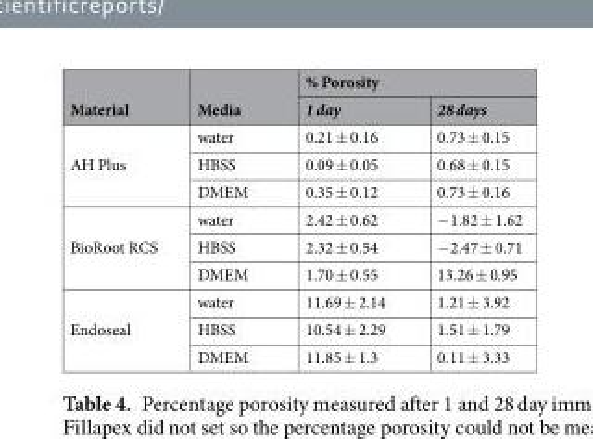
<table><thead><tr><td rowspan="2">Material</td><td rowspan="2">Media</td><td colspan="2">% Porosity</td></tr><tr><td>1 day</td><td>28 days</td></tr></thead><tbody><tr><td rowspan="3">AH Plus</td><td>water</td><td>0.21 ± 0.16</td><td>0.73 ± 0.15</td></tr><tr><td>HBSS</td><td>0.09 ± 0.05</td><td>0.68 ± 0.15</td></tr><tr><td>DMEM</td><td>0.35 ± 0.12</td><td>0.73 ± 0.16</td></tr><tr><td rowspan="3">BioRoot RCS</td><td>water</td><td>2.42 ± 0.62</td><td>−1.82 ± 1.62</td></tr><tr><td>HBSS</td><td>2.32 ± 0.54</td><td>−2.47 ± 0.71</td></tr><tr><td>DMEM</td><td>1.70 ± 0.55</td><td>13.26 ± 0.95</td></tr><tr><td rowspan="3">Endoseal</td><td>water</td><td>11.69 ± 2.14</td><td>1.21 ± 3.92</td></tr><tr><td>HBSS</td><td>10.54 ± 2.29</td><td>1.51 ± 1.79</td></tr><tr><td>DMEM</td><td>11.85 ± 1.3</td><td>0.11 ± 3.33</td></tr></tbody></table>